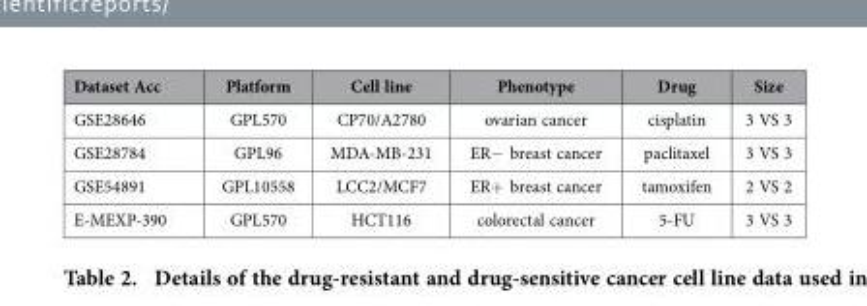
<table><thead><tr><td>Dataset Acc</td><td>Platform</td><td>Cell line</td><td>Phenotype</td><td>Drug</td><td>Size</td></tr></thead><tbody><tr><td>GSE28646</td><td>GPL570</td><td>CP70/A2780</td><td>ovarian cancer</td><td>cisplatin</td><td>3 VS 3</td></tr><tr><td>GSE28784</td><td>GPL96</td><td>MDA-MB-231</td><td>ER− breast cancer</td><td>paclitaxel</td><td>3 VS 3</td></tr><tr><td>GSE54891</td><td>GPL10558</td><td>LCC2/MCF7</td><td>ER+ breast cancer</td><td>tamoxifen</td><td>2 VS 2</td></tr><tr><td>E-MEXP-390</td><td>GPL570</td><td>HCT116</td><td>colorectal cancer</td><td>5-FU</td><td>3 VS 3</td></tr></tbody></table>